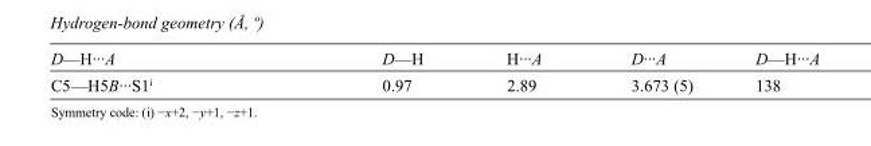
<table><tbody><tr><td>D—H···A</td><td>D—H</td><td>H···A</td><td>D···A</td><td>D—H···A</td></tr><tr><td>C5—H5B···S1<sup>i</sup></td><td>0.97</td><td>2.89</td><td>3.673 (5)</td><td>138</td></tr></tbody></table>